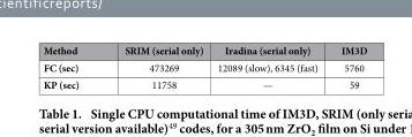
<table><thead><tr><td>Method</td><td>SRIM (serial only)</td><td>Iradina (serial only)</td><td>IM3D</td></tr></thead><tbody><tr><td>FC (sec)</td><td>473269</td><td>12089 (slow), 6345 (fast)</td><td>5760</td></tr><tr><td>KP (sec)</td><td>11758</td><td>—</td><td>59</td></tr></tbody></table>